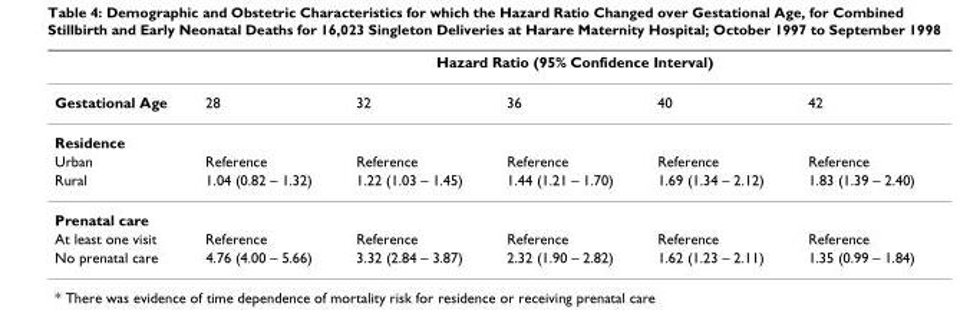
<table><thead><tr><td rowspan="2">Gestational Age</td><td colspan="5">Hazard Ratio (95% Confidence Interval)</td></tr><tr><td>28</td><td>32</td><td>36</td><td>40</td><td>42</td></tr></thead><tbody><tr><td colspan="6">Residence</td></tr><tr><td>Urban</td><td>Reference</td><td>Reference</td><td>Reference</td><td>Reference</td><td>Reference</td></tr><tr><td>Rural</td><td>1.04 (0.82 – 1.32)</td><td>1.22 (1.03 – 1.45)</td><td>1.44 (1.21 – 1.70)</td><td>1.69 (1.34 – 2.12)</td><td>1.83 (1.39 – 2.40)</td></tr><tr><td colspan="6">Prenatal care</td></tr><tr><td>At least one visit</td><td>Reference</td><td>Reference</td><td>Reference</td><td>Reference</td><td>Reference</td></tr><tr><td>No prenatal care</td><td>4.76 (4.00 – 5.66)</td><td>3.32 (2.84 – 3.87)</td><td>2.32 (1.90 – 2.82)</td><td>1.62 (1.23 – 2.11)</td><td>1.35 (0.99 – 1.84)</td></tr></tbody></table>